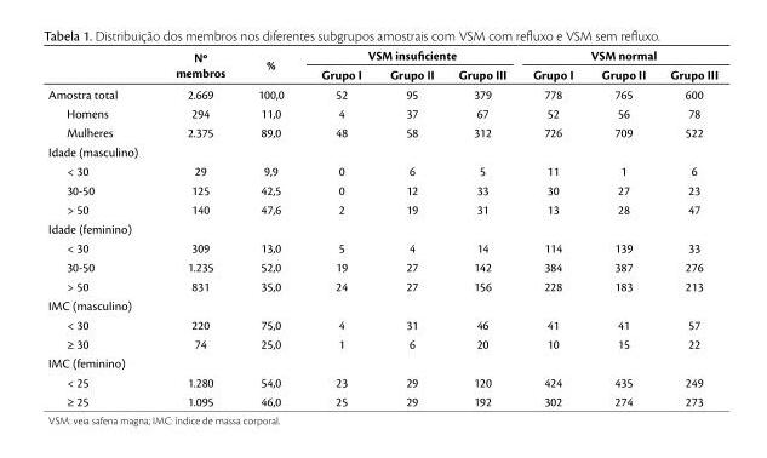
<table><thead><tr><td rowspan="2"></td><td rowspan="2">Nº membros</td><td rowspan="2">%</td><td colspan="3">VSM insuficiente</td><td colspan="3">VSM normal</td></tr><tr><td>Grupo I</td><td>Grupo II</td><td>Grupo III</td><td>Grupo I</td><td>Grupo II</td><td>Grupo III</td></tr></thead><tbody><tr><td>Amostra total</td><td>2.669</td><td>100,0</td><td>52</td><td>95</td><td>379</td><td>778</td><td>765</td><td>600</td></tr><tr><td>Homens</td><td>294</td><td>11,0</td><td>4</td><td>37</td><td>67</td><td>52</td><td>56</td><td>78</td></tr><tr><td>Mulheres</td><td>2.375</td><td>89,0</td><td>48</td><td>58</td><td>312</td><td>726</td><td>709</td><td>522</td></tr><tr><td colspan="9">Idade (masculino)</td></tr><tr><td>&lt; 30</td><td>29</td><td>9,9</td><td>0</td><td>6</td><td>5</td><td>11</td><td>1</td><td>6</td></tr><tr><td>30-50</td><td>125</td><td>42,5</td><td>0</td><td>12</td><td>33</td><td>30</td><td>27</td><td>23</td></tr><tr><td>&gt; 50</td><td>140</td><td>47,6</td><td>2</td><td>19</td><td>31</td><td>13</td><td>28</td><td>47</td></tr><tr><td colspan="9">Idade (feminino)</td></tr><tr><td>&lt; 30</td><td>309</td><td>13,0</td><td>5</td><td>4</td><td>14</td><td>114</td><td>139</td><td>33</td></tr><tr><td>30-50</td><td>1.235</td><td>52,0</td><td>19</td><td>27</td><td>142</td><td>384</td><td>387</td><td>276</td></tr><tr><td>&gt; 50</td><td>831</td><td>35,0</td><td>24</td><td>27</td><td>156</td><td>228</td><td>183</td><td>213</td></tr><tr><td colspan="9">IMC (masculino)</td></tr><tr><td>&lt; 30</td><td>220</td><td>75,0</td><td>4</td><td>31</td><td>46</td><td>41</td><td>41</td><td>57</td></tr><tr><td>≥ 30</td><td>74</td><td>25,0</td><td>1</td><td>6</td><td>20</td><td>10</td><td>15</td><td>22</td></tr><tr><td colspan="9">IMC (feminino)</td></tr><tr><td>&lt; 25</td><td>1.280</td><td>54,0</td><td>23</td><td>29</td><td>120</td><td>424</td><td>435</td><td>249</td></tr><tr><td>≥ 25</td><td>1.095</td><td>46,0</td><td>25</td><td>29</td><td>192</td><td>302</td><td>274</td><td>273</td></tr></tbody></table>